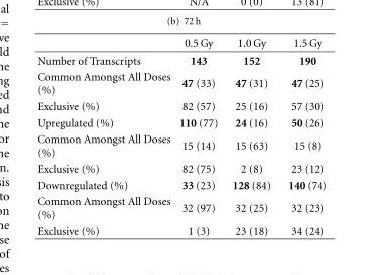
<table><thead><tr><td></td><td>0.5 Gy</td><td>1.0 Gy</td><td>1.5 Gy</td></tr></thead><tbody><tr><td>Number of Transcripts</td><td>143</td><td>152</td><td>190</td></tr><tr><td>Common Amongst All Doses (%)</td><td>47 (33)</td><td>47 (31)</td><td>47 (25)</td></tr><tr><td>Exclusive (%)</td><td>82 (57)</td><td>25 (16)</td><td>57 (30)</td></tr><tr><td>Upregulated (%)</td><td>110 (77)</td><td>24 (16)</td><td>50 (26)</td></tr><tr><td>Common Amongst All Doses (%)</td><td>15 (14)</td><td>15 (63)</td><td>15 (8)</td></tr><tr><td>Exclusive (%)</td><td>82 (75)</td><td>2 (8)</td><td>23 (12)</td></tr><tr><td>Downregulated (%)</td><td>33 (23)</td><td>128 (84)</td><td>140 (74)</td></tr><tr><td>Common Amongst All Doses (%)</td><td>32 (97)</td><td>32 (25)</td><td>32 (23)</td></tr><tr><td>Exclusive (%)</td><td>1 (3)</td><td>23 (18)</td><td>34 (24)</td></tr></tbody></table>